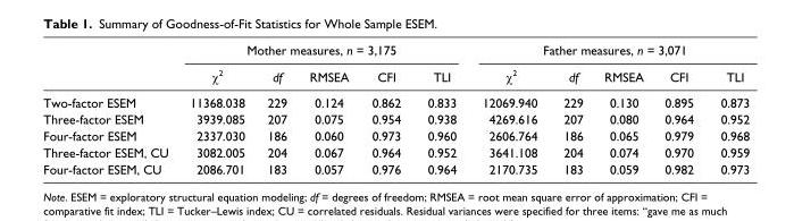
<table><thead><tr><td rowspan="2"></td><td colspan="5">Mother measures, n = 3,175</td><td colspan="5">Father measures, n = 3,071</td></tr><tr><td>χ<sup>2</sup></td><td>df</td><td>RMSEA</td><td>CFI</td><td>TLI</td><td>χ<sup>2</sup></td><td>df</td><td>RMSEA</td><td>CFI</td><td>TLI</td></tr></thead><tbody><tr><td>Two-factor ESEM</td><td>11368.038</td><td>229</td><td>0.124</td><td>0.862</td><td>0.833</td><td>12069.940</td><td>229</td><td>0.130</td><td>0.895</td><td>0.873</td></tr><tr><td>Three-factor ESEM</td><td>3939.085</td><td>207</td><td>0.075</td><td>0.954</td><td>0.938</td><td>4269.616</td><td>207</td><td>0.080</td><td>0.964</td><td>0.952</td></tr><tr><td>Four-factor ESEM</td><td>2337.030</td><td>186</td><td>0.060</td><td>0.973</td><td>0.960</td><td>2606.764</td><td>186</td><td>0.065</td><td>0.979</td><td>0.968</td></tr><tr><td>Three-factor ESEM, CU</td><td>3082.005</td><td>204</td><td>0.067</td><td>0.964</td><td>0.952</td><td>3641.108</td><td>204</td><td>0.074</td><td>0.970</td><td>0.959</td></tr><tr><td>Four-factor ESEM, CU</td><td>2086.701</td><td>183</td><td>0.057</td><td>0.976</td><td>0.964</td><td>2170.735</td><td>183</td><td>0.059</td><td>0.982</td><td>0.973</td></tr></tbody></table>